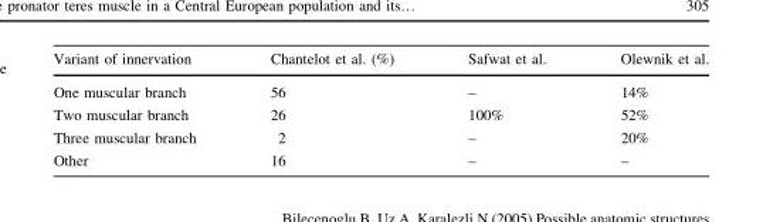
<table><thead><tr><td>Variant of innervation</td><td>Chantelot et al. (%)</td><td>Safwat et al.</td><td>Olewnik et al.</td></tr></thead><tbody><tr><td>One muscular branch</td><td>56</td><td>–</td><td>14%</td></tr><tr><td>Two muscular branch</td><td>26</td><td>100%</td><td>52%</td></tr><tr><td>Three muscular branch</td><td>2</td><td>–</td><td>20%</td></tr><tr><td>Other</td><td>16</td><td>–</td><td>–</td></tr></tbody></table>